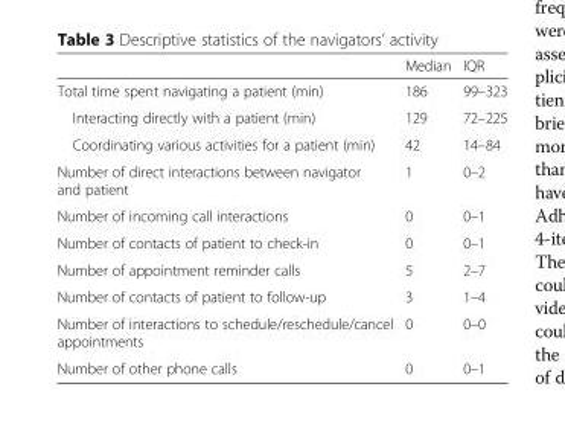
<table><thead><tr><td></td><td>Median</td><td>IQR</td></tr></thead><tbody><tr><td>Total time spent navigating a patient (min)</td><td>186</td><td>99–323</td></tr><tr><td>Interacting directly with a patient (min)</td><td>129</td><td>72–225</td></tr><tr><td>Coordinating various activities for a patient (min)</td><td>42</td><td>14–84</td></tr><tr><td>Number of direct interactions between navigator and patient</td><td>1</td><td>0–2</td></tr><tr><td>Number of incoming call interactions</td><td>0</td><td>0–1</td></tr><tr><td>Number of contacts of patient to check-in</td><td>0</td><td>0–1</td></tr><tr><td>Number of appointment reminder calls</td><td>5</td><td>2–7</td></tr><tr><td>Number of contacts of patient to follow-up</td><td>3</td><td>1–4</td></tr><tr><td>Number of interactions to schedule/reschedule/cancel appointments</td><td>0</td><td>0–0</td></tr><tr><td>Number of other phone calls</td><td>0</td><td>0–1</td></tr></tbody></table>